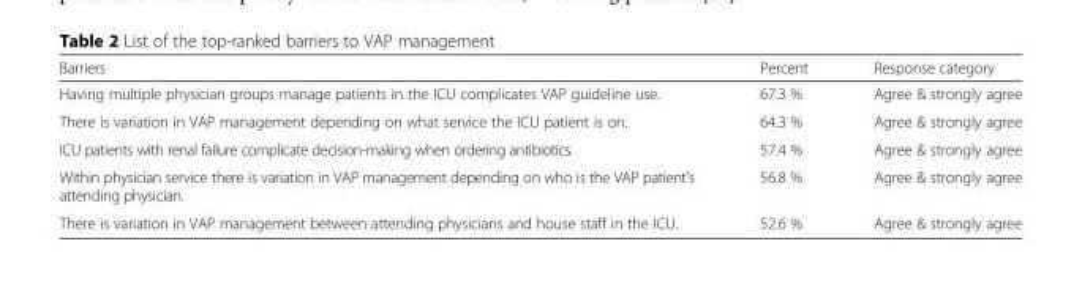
<table><thead><tr><td>Barriers</td><td>Percent</td><td>Response category</td></tr></thead><tbody><tr><td>Having multiple physician groups manage patients in the ICU complicates VAP guideline use.</td><td>67.3 %</td><td>Agree &amp; strongly agree</td></tr><tr><td>There is variation in VAP management depending on what service the ICU patient is on.</td><td>64.3 %</td><td>Agree &amp; strongly agree</td></tr><tr><td>ICU patients with renal failure complicate decision-making when ordering antibiotics.</td><td>57.4 %</td><td>Agree &amp; strongly agree</td></tr><tr><td>Within physician service there is variation in VAP management depending on who is the VAP patient’s attending physician.</td><td>56.8 %</td><td>Agree &amp; strongly agree</td></tr><tr><td>There is variation in VAP management between attending physicians and house staff in the ICU.</td><td>52.6 %</td><td>Agree &amp; strongly agree</td></tr></tbody></table>